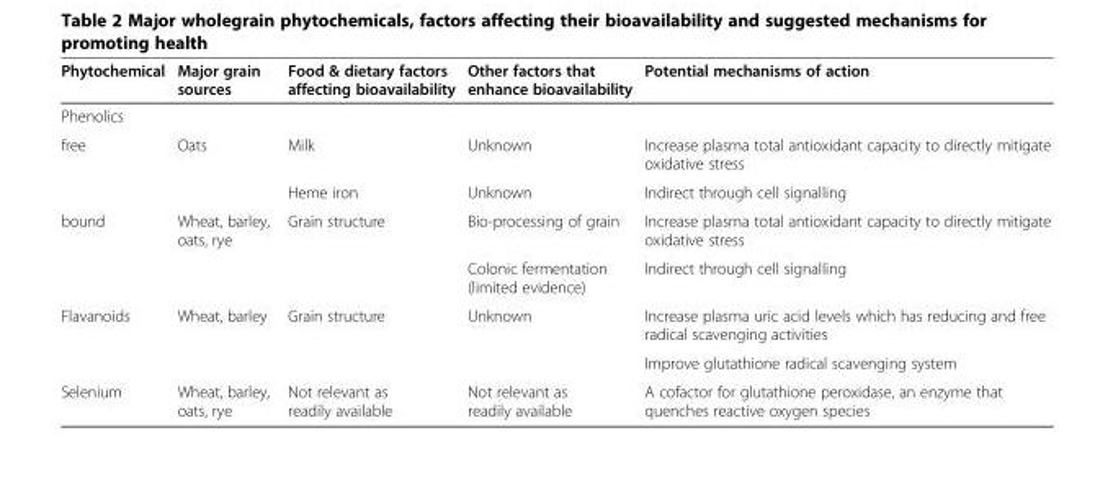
<table><thead><tr><td>Phytochemical</td><td>Major grain sources</td><td>Food &amp; dietary factors affecting bioavailability</td><td>Other factors that enhance bioavailability</td><td>Potential mechanisms of action</td></tr></thead><tbody><tr><td colspan="5">Phenolics</td></tr><tr><td rowspan="2">free</td><td>Oats</td><td>Milk</td><td>Unknown</td><td>Increase plasma total antioxidant capacity to directly mitigate oxidative stress</td></tr><tr><td></td><td>Heme iron</td><td>Unknown</td><td>Indirect through cell signalling</td></tr><tr><td rowspan="2">bound</td><td>Wheat, barley, oats, rye</td><td>Grain structure</td><td>Bio-processing of grain</td><td>Increase plasma total antioxidant capacity to directly mitigate oxidative stress</td></tr><tr><td></td><td></td><td>Colonic fermentation (limited evidence)</td><td>Indirect through cell signalling</td></tr><tr><td rowspan="2">Flavanoids</td><td>Wheat, barley</td><td>Grain structure</td><td>Unknown</td><td>Increase plasma uric acid levels which has reducing and free radical scavenging activities</td></tr><tr><td></td><td></td><td></td><td>Improve glutathione radical scavenging system</td></tr><tr><td>Selenium</td><td>Wheat, barley, oats, rye</td><td>Not relevant as readily available</td><td>Not relevant as readily available</td><td>A cofactor for glutathione peroxidase, an enzyme that quenches reactive oxygen species</td></tr></tbody></table>